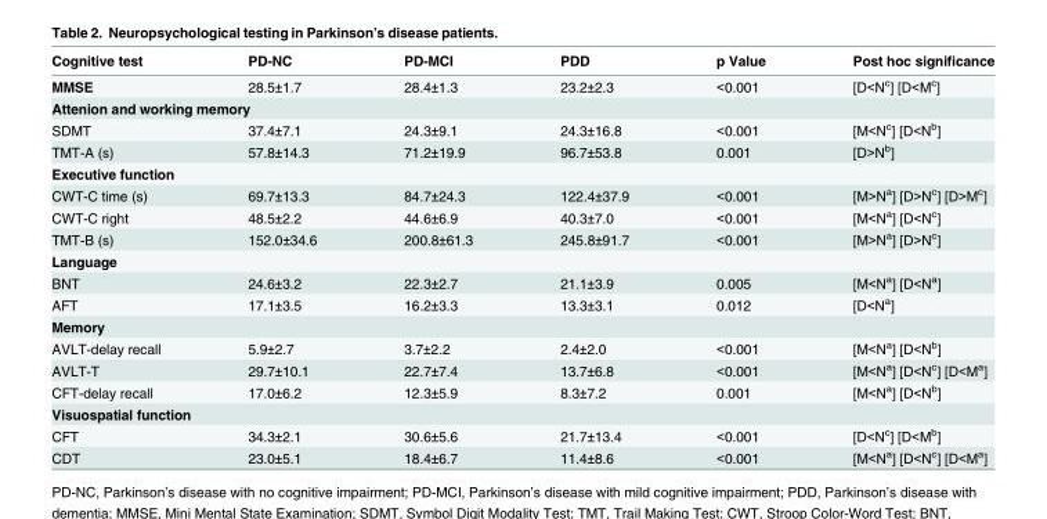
<table><thead><tr><td>Cognitive test</td><td>PD-NC</td><td>PD-MCI</td><td>PDD</td><td>p Value</td><td>Post hoc significance</td></tr></thead><tbody><tr><td>MMSE</td><td>28.5±1.7</td><td>28.4±1.3</td><td>23.2±2.3</td><td>&lt;0.001</td><td>[D&lt;N<sup>c</sup>] [D&lt;M<sup>c</sup>]</td></tr><tr><td colspan="6">Attenion and working memory</td></tr><tr><td>SDMT</td><td>37.4±7.1</td><td>24.3±9.1</td><td>24.3±16.8</td><td>&lt;0.001</td><td>[M&lt;N<sup>c</sup>] [D&lt;N<sup>b</sup>]</td></tr><tr><td>TMT-A (s)</td><td>57.8±14.3</td><td>71.2±19.9</td><td>96.7±53.8</td><td>0.001</td><td>[D&gt;N<sup>b</sup>]</td></tr><tr><td colspan="6">Executive function</td></tr><tr><td>CWT-C time (s)</td><td>69.7±13.3</td><td>84.7±24.3</td><td>122.4±37.9</td><td>&lt;0.001</td><td>[M&gt;N<sup>a</sup>] [D&gt;N<sup>c</sup>] [D&gt;M<sup>c</sup>]</td></tr><tr><td>CWT-C right</td><td>48.5±2.2</td><td>44.6±6.9</td><td>40.3±7.0</td><td>&lt;0.001</td><td>[M&lt;N<sup>a</sup>] [D&lt;N<sup>c</sup>]</td></tr><tr><td>TMT-B (s)</td><td>152.0±34.6</td><td>200.8±61.3</td><td>245.8±91.7</td><td>&lt;0.001</td><td>[M&gt;N<sup>a</sup>] [D&gt;N<sup>c</sup>]</td></tr><tr><td colspan="6">Language</td></tr><tr><td>BNT</td><td>24.6±3.2</td><td>22.3±2.7</td><td>21.1±3.9</td><td>0.005</td><td>[M&lt;N<sup>a</sup>] [D&lt;N<sup>a</sup>]</td></tr><tr><td>AFT</td><td>17.1±3.5</td><td>16.2±3.3</td><td>13.3±3.1</td><td>0.012</td><td>[D&lt;N<sup>a</sup>]</td></tr><tr><td colspan="6">Memory</td></tr><tr><td>AVLT-delay recall</td><td>5.9±2.7</td><td>3.7±2.2</td><td>2.4±2.0</td><td>&lt;0.001</td><td>[M&lt;N<sup>a</sup>] [D&lt;N<sup>b</sup>]</td></tr><tr><td>AVLT-T</td><td>29.7±10.1</td><td>22.7±7.4</td><td>13.7±6.8</td><td>&lt;0.001</td><td>[M&lt;N<sup>a</sup>] [D&lt;N<sup>c</sup>] [D&lt;M<sup>a</sup>]</td></tr><tr><td>CFT-delay recall</td><td>17.0±6.2</td><td>12.3±5.9</td><td>8.3±7.2</td><td>0.001</td><td>[M&lt;N<sup>a</sup>] [D&lt;N<sup>b</sup>]</td></tr><tr><td colspan="6">Visuospatial function</td></tr><tr><td>CFT</td><td>34.3±2.1</td><td>30.6±5.6</td><td>21.7±13.4</td><td>&lt;0.001</td><td>[D&lt;N<sup>c</sup>] [D&lt;M<sup>b</sup>]</td></tr><tr><td>CDT</td><td>23.0±5.1</td><td>18.4±6.7</td><td>11.4±8.6</td><td>&lt;0.001</td><td>[M&lt;N<sup>a</sup>] [D&lt;N<sup>c</sup>] [D&lt;M<sup>a</sup>]</td></tr></tbody></table>